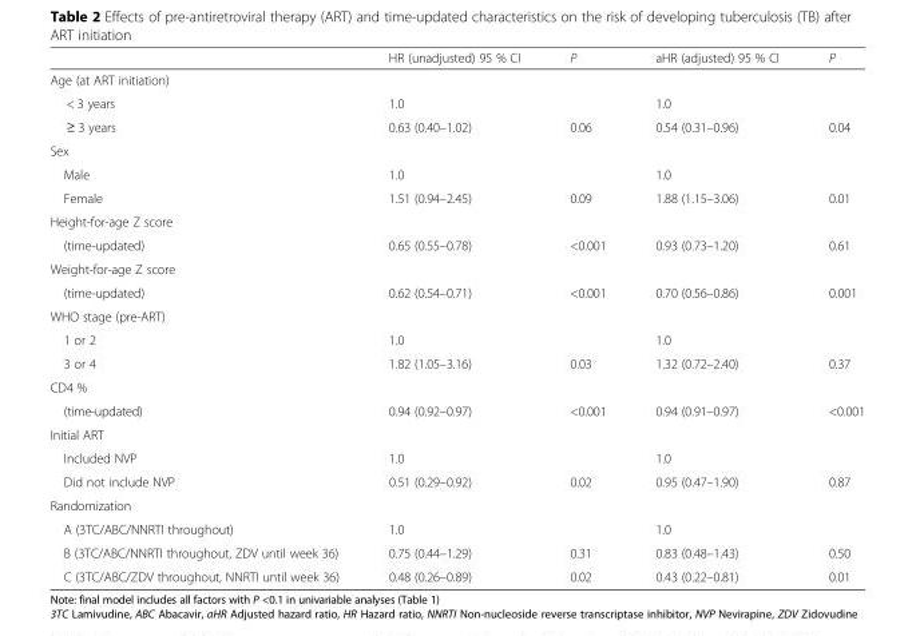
<table><thead><tr><td></td><td>HR (unadjusted) 95 % CI</td><td>P</td><td>aHR (adjusted) 95 % CI</td><td>P</td></tr></thead><tbody><tr><td colspan="5">Age (at ART initiation)</td></tr><tr><td>&lt; 3 years</td><td>1.0</td><td></td><td>1.0</td><td></td></tr><tr><td>≥ 3 years</td><td>0.63 (0.40–1.02)</td><td>0.06</td><td>0.54 (0.31–0.96)</td><td>0.04</td></tr><tr><td colspan="5">Sex</td></tr><tr><td>Male</td><td>1.0</td><td></td><td>1.0</td><td></td></tr><tr><td>Female</td><td>1.51 (0.94–2.45)</td><td>0.09</td><td>1.88 (1.15–3.06)</td><td>0.01</td></tr><tr><td colspan="5">Height-for-age Z score</td></tr><tr><td>(time-updated)</td><td>0.65 (0.55–0.78)</td><td>&lt;0.001</td><td>0.93 (0.73–1.20)</td><td>0.61</td></tr><tr><td colspan="5">Weight-for-age Z score</td></tr><tr><td>(time-updated)</td><td>0.62 (0.54–0.71)</td><td>&lt;0.001</td><td>0.70 (0.56–0.86)</td><td>0.001</td></tr><tr><td colspan="5">WHO stage (pre-ART)</td></tr><tr><td>1 or 2</td><td>1.0</td><td></td><td>1.0</td><td></td></tr><tr><td>3 or 4</td><td>1.82 (1.05–3.16)</td><td>0.03</td><td>1.32 (0.72–2.40)</td><td>0.37</td></tr><tr><td colspan="5">CD4 %</td></tr><tr><td>(time-updated)</td><td>0.94 (0.92–0.97)</td><td>&lt;0.001</td><td>0.94 (0.91–0.97)</td><td>&lt;0.001</td></tr><tr><td colspan="5">Initial ART</td></tr><tr><td>Included NVP</td><td>1.0</td><td></td><td>1.0</td><td></td></tr><tr><td>Did not include NVP</td><td>0.51 (0.29–0.92)</td><td>0.02</td><td>0.95 (0.47–1.90)</td><td>0.87</td></tr><tr><td colspan="5">Randomization</td></tr><tr><td>A (3TC/ABC/NNRTI throughout)</td><td>1.0</td><td></td><td>1.0</td><td></td></tr><tr><td>B (3TC/ABC/NNRTI throughout, ZDV until week 36)</td><td>0.75 (0.44–1.29)</td><td>0.31</td><td>0.83 (0.48–1.43)</td><td>0.50</td></tr><tr><td>C (3TC/ABC/ZDV throughout, NNRTI until week 36)</td><td>0.48 (0.26–0.89)</td><td>0.02</td><td>0.43 (0.22–0.81)</td><td>0.01</td></tr></tbody></table>